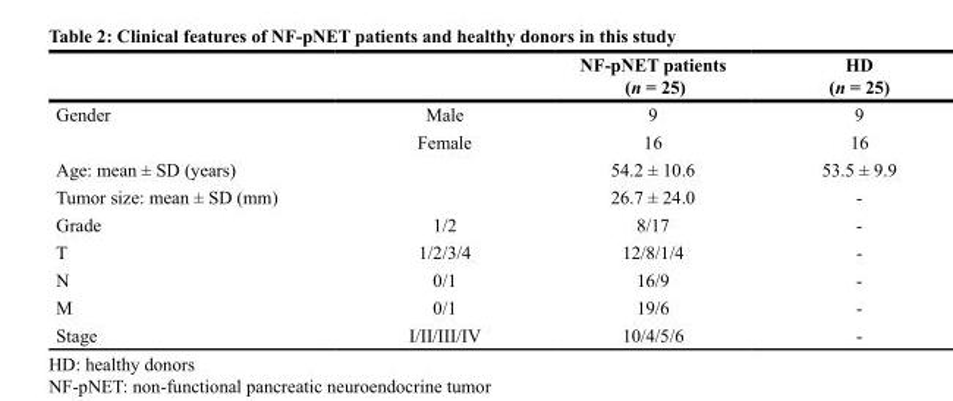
<table><thead><tr><td></td><td></td><td>NF-pNET patients (n = 25)</td><td>HD (n = 25)</td></tr></thead><tbody><tr><td rowspan="2">Gender</td><td>Male</td><td>9</td><td>9</td></tr><tr><td>Female</td><td>16</td><td>16</td></tr><tr><td>Age: mean ± SD (years)</td><td></td><td>54.2 ± 10.6</td><td>53.5 ± 9.9</td></tr><tr><td>Tumor size: mean ± SD (mm)</td><td></td><td>26.7 ± 24.0</td><td>-</td></tr><tr><td>Grade</td><td>1/2</td><td>8/17</td><td>-</td></tr><tr><td>T</td><td>1/2/3/4</td><td>12/8/1/4</td><td>-</td></tr><tr><td>N</td><td>0/1</td><td>16/9</td><td>-</td></tr><tr><td>M</td><td>0/1</td><td>19/6</td><td>-</td></tr><tr><td>Stage</td><td>I/II/III/IV</td><td>10/4/5/6</td><td>-</td></tr></tbody></table>